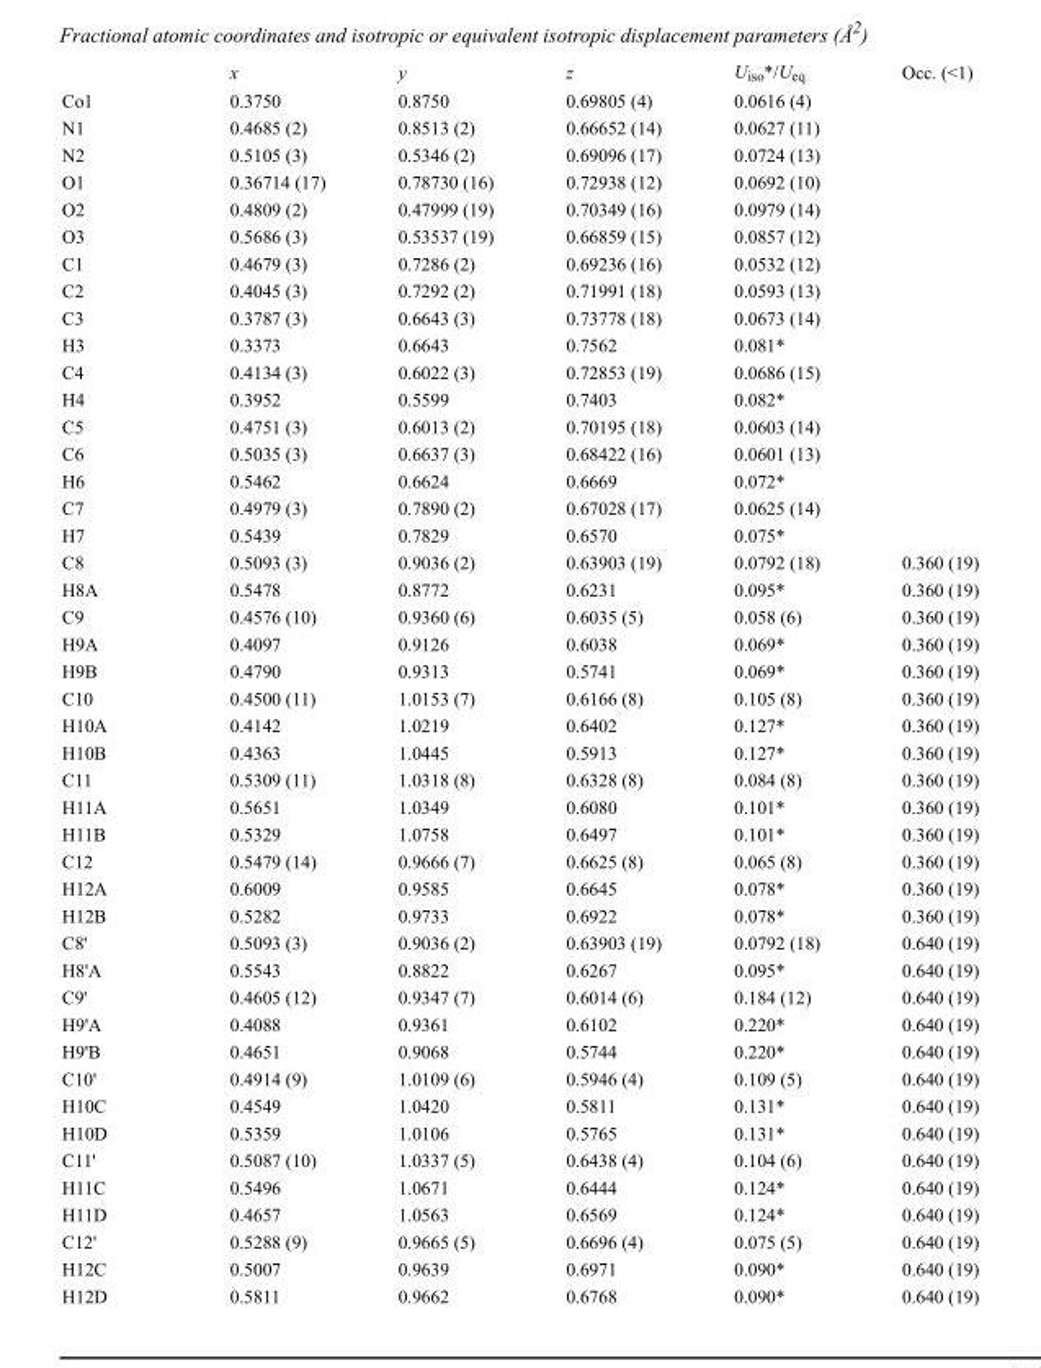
<table><thead><tr><td></td><td>x</td><td>y</td><td>z</td><td>U<sub>iso</sub>*/U<sub>eq</sub></td><td>Occ. (&lt;1)</td></tr></thead><tbody><tr><td>Co1</td><td>0.3750</td><td>0.8750</td><td>0.69805 (4)</td><td>0.0616 (4)</td><td></td></tr><tr><td>N1</td><td>0.4685 (2)</td><td>0.8513 (2)</td><td>0.66652 (14)</td><td>0.0627 (11)</td><td></td></tr><tr><td>N2</td><td>0.5105 (3)</td><td>0.5346 (2)</td><td>0.69096 (17)</td><td>0.0724 (13)</td><td></td></tr><tr><td>O1</td><td>0.36714 (17)</td><td>0.78730 (16)</td><td>0.72938 (12)</td><td>0.0692 (10)</td><td></td></tr><tr><td>O2</td><td>0.4809 (2)</td><td>0.47999 (19)</td><td>0.70349 (16)</td><td>0.0979 (14)</td><td></td></tr><tr><td>O3</td><td>0.5686 (3)</td><td>0.53537 (19)</td><td>0.66859 (15)</td><td>0.0857 (12)</td><td></td></tr><tr><td>C1</td><td>0.4679 (3)</td><td>0.7286 (2)</td><td>0.69236 (16)</td><td>0.0532 (12)</td><td></td></tr><tr><td>C2</td><td>0.4045 (3)</td><td>0.7292 (2)</td><td>0.71991 (18)</td><td>0.0593 (13)</td><td></td></tr><tr><td>C3</td><td>0.3787 (3)</td><td>0.6643 (3)</td><td>0.73778 (18)</td><td>0.0673 (14)</td><td></td></tr><tr><td>H3</td><td>0.3373</td><td>0.6643</td><td>0.7562</td><td>0.081*</td><td></td></tr><tr><td>C4</td><td>0.4134 (3)</td><td>0.6022 (3)</td><td>0.72853 (19)</td><td>0.0686 (15)</td><td></td></tr><tr><td>H4</td><td>0.3952</td><td>0.5599</td><td>0.7403</td><td>0.082*</td><td></td></tr><tr><td>C5</td><td>0.4751 (3)</td><td>0.6013 (2)</td><td>0.70195 (18)</td><td>0.0603 (14)</td><td></td></tr><tr><td>C6</td><td>0.5035 (3)</td><td>0.6637 (3)</td><td>0.68422 (16)</td><td>0.0601 (13)</td><td></td></tr><tr><td>H6</td><td>0.5462</td><td>0.6624</td><td>0.6669</td><td>0.072*</td><td></td></tr><tr><td>C7</td><td>0.4979 (3)</td><td>0.7890 (2)</td><td>0.67028 (17)</td><td>0.0625 (14)</td><td></td></tr><tr><td>H7</td><td>0.5439</td><td>0.7829</td><td>0.6570</td><td>0.075*</td><td></td></tr><tr><td>C8</td><td>0.5093 (3)</td><td>0.9036 (2)</td><td>0.63903 (19)</td><td>0.0792 (18)</td><td>0.360 (19)</td></tr><tr><td>H8A</td><td>0.5478</td><td>0.8772</td><td>0.6231</td><td>0.095*</td><td>0.360 (19)</td></tr><tr><td>C9</td><td>0.4576 (10)</td><td>0.9360 (6)</td><td>0.6035 (5)</td><td>0.058 (6)</td><td>0.360 (19)</td></tr><tr><td>H9A</td><td>0.4097</td><td>0.9126</td><td>0.6038</td><td>0.069*</td><td>0.360 (19)</td></tr><tr><td>H9B</td><td>0.4790</td><td>0.9313</td><td>0.5741</td><td>0.069*</td><td>0.360 (19)</td></tr><tr><td>C10</td><td>0.4500 (11)</td><td>1.0153 (7)</td><td>0.6166 (8)</td><td>0.105 (8)</td><td>0.360 (19)</td></tr><tr><td>H10A</td><td>0.4142</td><td>1.0219</td><td>0.6402</td><td>0.127*</td><td>0.360 (19)</td></tr><tr><td>H10B</td><td>0.4363</td><td>1.0445</td><td>0.5913</td><td>0.127*</td><td>0.360 (19)</td></tr><tr><td>C11</td><td>0.5309 (11)</td><td>1.0318 (8)</td><td>0.6328 (8)</td><td>0.084 (8)</td><td>0.360 (19)</td></tr><tr><td>H11A</td><td>0.5651</td><td>1.0349</td><td>0.6080</td><td>0.101*</td><td>0.360 (19)</td></tr><tr><td>H11B</td><td>0.5329</td><td>1.0758</td><td>0.6497</td><td>0.101*</td><td>0.360 (19)</td></tr><tr><td>C12</td><td>0.5479 (14)</td><td>0.9666 (7)</td><td>0.6625 (8)</td><td>0.065 (8)</td><td>0.360 (19)</td></tr><tr><td>H12A</td><td>0.6009</td><td>0.9585</td><td>0.6645</td><td>0.078*</td><td>0.360 (19)</td></tr><tr><td>H12B</td><td>0.5282</td><td>0.9733</td><td>0.6922</td><td>0.078*</td><td>0.360 (19)</td></tr><tr><td>C8&#x27;</td><td>0.5093 (3)</td><td>0.9036 (2)</td><td>0.63903 (19)</td><td>0.0792 (18)</td><td>0.640 (19)</td></tr><tr><td>H8&#x27;A</td><td>0.5543</td><td>0.8822</td><td>0.6267</td><td>0.095*</td><td>0.640 (19)</td></tr><tr><td>C9&#x27;</td><td>0.4605 (12)</td><td>0.9347 (7)</td><td>0.6014 (6)</td><td>0.184 (12)</td><td>0.640 (19)</td></tr><tr><td>H9&#x27;A</td><td>0.4088</td><td>0.9361</td><td>0.6102</td><td>0.220*</td><td>0.640 (19)</td></tr><tr><td>H9&#x27;B</td><td>0.4651</td><td>0.9068</td><td>0.5744</td><td>0.220*</td><td>0.640 (19)</td></tr><tr><td>C10&#x27;</td><td>0.4914 (9)</td><td>1.0109 (6)</td><td>0.5946 (4)</td><td>0.109 (5)</td><td>0.640 (19)</td></tr><tr><td>H10C</td><td>0.4549</td><td>1.0420</td><td>0.5811</td><td>0.131*</td><td>0.640 (19)</td></tr><tr><td>H10D</td><td>0.5359</td><td>1.0106</td><td>0.5765</td><td>0.131*</td><td>0.640 (19)</td></tr><tr><td>C11&#x27;</td><td>0.5087 (10)</td><td>1.0337 (5)</td><td>0.6438 (4)</td><td>0.104 (6)</td><td>0.640 (19)</td></tr><tr><td>H11C</td><td>0.5496</td><td>1.0671</td><td>0.6444</td><td>0.124*</td><td>0.640 (19)</td></tr><tr><td>H11D</td><td>0.4657</td><td>1.0563</td><td>0.6569</td><td>0.124*</td><td>0.640 (19)</td></tr><tr><td>C12&#x27;</td><td>0.5288 (9)</td><td>0.9665 (5)</td><td>0.6696 (4)</td><td>0.075 (5)</td><td>0.640 (19)</td></tr><tr><td>H12C</td><td>0.5007</td><td>0.9639</td><td>0.6971</td><td>0.090*</td><td>0.640 (19)</td></tr><tr><td>H12D</td><td>0.5811</td><td>0.9662</td><td>0.6768</td><td>0.090*</td><td>0.640 (19)</td></tr></tbody></table>